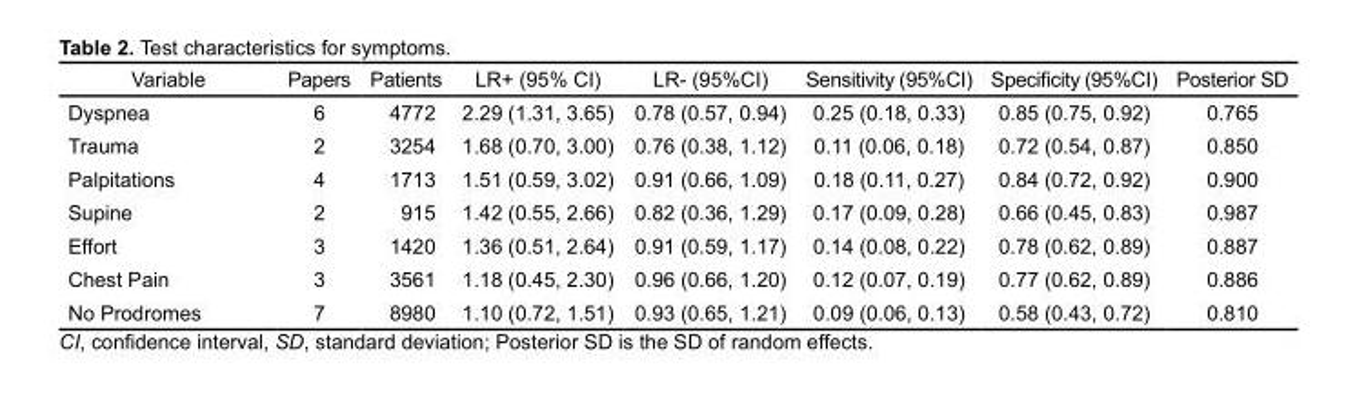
<table><thead><tr><td>Variable</td><td>Papers</td><td>Patients</td><td>LR+ (95% CI)</td><td>LR- (95%CI)</td><td>Sensitivity (95%CI)</td><td>Specificity (95%CI)</td><td>Posterior SD</td></tr></thead><tbody><tr><td>Dyspnea</td><td>6</td><td>4772</td><td>2.29 (1.31, 3.65)</td><td>0.78 (0.57, 0.94)</td><td>0.25 (0.18, 0.33)</td><td>0.85 (0.75, 0.92)</td><td>0.765</td></tr><tr><td>Trauma</td><td>2</td><td>3254</td><td>1.68 (0.70, 3.00)</td><td>0.76 (0.38, 1.12)</td><td>0.11 (0.06, 0.18)</td><td>0.72 (0.54, 0.87)</td><td>0.850</td></tr><tr><td>Palpitations</td><td>4</td><td>1713</td><td>1.51 (0.59, 3.02)</td><td>0.91 (0.66, 1.09)</td><td>0.18 (0.11, 0.27)</td><td>0.84 (0.72, 0.92)</td><td>0.900</td></tr><tr><td>Supine</td><td>2</td><td>915</td><td>1.42 (0.55, 2.66)</td><td>0.82 (0.36, 1.29)</td><td>0.17 (0.09, 0.28)</td><td>0.66 (0.45, 0.83)</td><td>0.987</td></tr><tr><td>Effort</td><td>3</td><td>1420</td><td>1.36 (0.51, 2.64)</td><td>0.91 (0.59, 1.17)</td><td>0.14 (0.08, 0.22)</td><td>0.78 (0.62, 0.89)</td><td>0.887</td></tr><tr><td>Chest Pain</td><td>3</td><td>3561</td><td>1.18 (0.45, 2.30)</td><td>0.96 (0.66, 1.20)</td><td>0.12 (0.07, 0.19)</td><td>0.77 (0.62, 0.89)</td><td>0.886</td></tr><tr><td>No Prodromes</td><td>7</td><td>8980</td><td>1.10 (0.72, 1.51)</td><td>0.93 (0.65, 1.21)</td><td>0.09 (0.06, 0.13)</td><td>0.58 (0.43, 0.72)</td><td>0.810</td></tr></tbody></table>